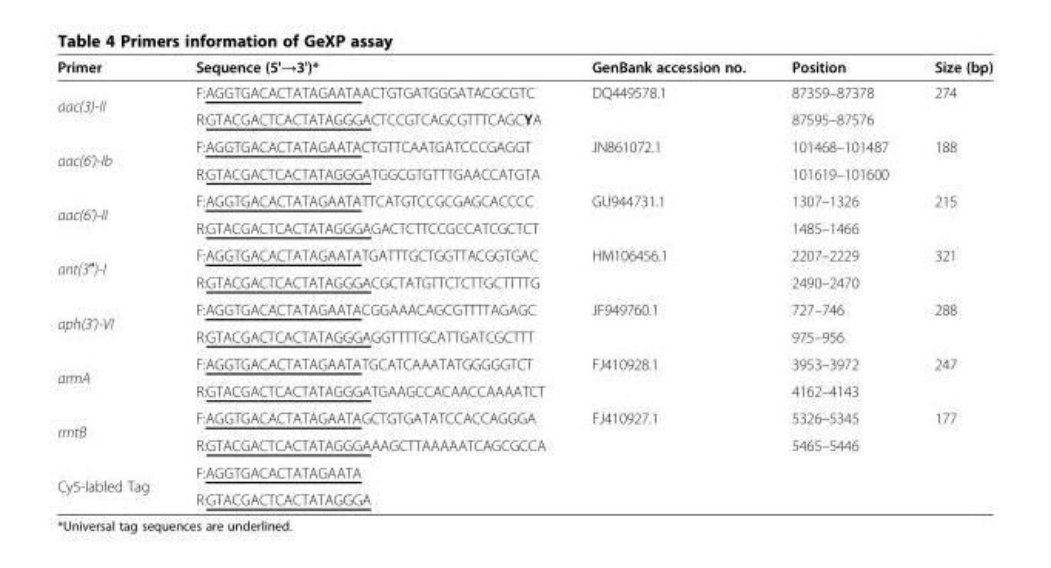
<table><thead><tr><td>Primer</td><td>Sequence (5&#x27;→3&#x27;)*</td><td>GenBank accession no.</td><td>Position</td><td>Size (bp)</td></tr></thead><tbody><tr><td rowspan="2">aac(3)-II</td><td>F:AGGTGACACTATAGAATAACTGTGATGGGATACGCGTC</td><td rowspan="2">DQ449578.1</td><td>87359–87378</td><td rowspan="2">274</td></tr><tr><td>R:GTACGACTCACTATAGGGACTCCGTCAGCGTTTCAGCYA</td><td>87595–87576</td></tr><tr><td rowspan="2">aac(6’)-Ib</td><td>F:AGGTGACACTATAGAATACTGTTCAATGATCCCGAGGT</td><td rowspan="2">JN861072.1</td><td>101468–101487</td><td rowspan="2">188</td></tr><tr><td>R:GTACGACTCACTATAGGGATGGCGTGTTTGAACCATGTA</td><td>101619–101600</td></tr><tr><td rowspan="2">aac(6’)-II</td><td>F:AGGTGACACTATAGAATATTCATGTCCGCGAGCACCCC</td><td rowspan="2">GU944731.1</td><td>1307–1326</td><td rowspan="2">215</td></tr><tr><td>R:GTACGACTCACTATAGGGAGACTCTTCCGCCATCGCTCT</td><td>1485–1466</td></tr><tr><td rowspan="2">ant(3″)-I</td><td>F:AGGTGACACTATAGAATATGATTTGCTGGTTACGGTGAC</td><td rowspan="2">HM106456.1</td><td>2207–2229</td><td rowspan="2">321</td></tr><tr><td>R:GTACGACTCACTATAGGGACGCTATGTTCTCTTGCTTTTG</td><td>2490–2470</td></tr><tr><td rowspan="2">aph(3’)-VI</td><td>F:AGGTGACACTATAGAATACGGAAACAGCGTTTTAGAGC</td><td rowspan="2">JF949760.1</td><td>727–746</td><td rowspan="2">288</td></tr><tr><td>R:GTACGACTCACTATAGGGAGGTTTTGCATTGATCGCTTT</td><td>975–956</td></tr><tr><td rowspan="2">armA</td><td>F:AGGTGACACTATAGAATATGCATCAAATATGGGGGTCT</td><td rowspan="2">FJ410928.1</td><td>3953–3972</td><td rowspan="2">247</td></tr><tr><td>R:GTACGACTCACTATAGGGATGAAGCCACAACCAAAATCT</td><td>4162–4143</td></tr><tr><td rowspan="2">rmtB</td><td>F:AGGTGACACTATAGAATAGCTGTGATATCCACCAGGGA</td><td rowspan="2">FJ410927.1</td><td>5326–5345</td><td rowspan="2">177</td></tr><tr><td>R:GTACGACTCACTATAGGGAAAGCTTAAAAATCAGCGCCA</td><td>5465–5446</td></tr><tr><td rowspan="2">Cy5-labled Tag</td><td>F:AGGTGACACTATAGAATA</td><td rowspan="2"></td><td></td><td rowspan="2"></td></tr><tr><td>R:GTACGACTCACTATAGGGA</td><td></td></tr></tbody></table>